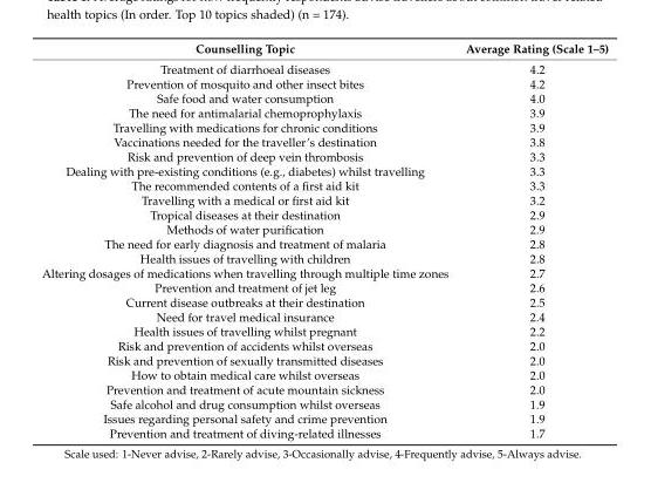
<table><thead><tr><td>Counselling Topic</td><td>Average Rating (Scale 1–5)</td></tr></thead><tbody><tr><td>Treatment of diarrhoeal diseases</td><td>4.2</td></tr><tr><td>Prevention of mosquito and other insect bites</td><td>4.2</td></tr><tr><td>Safe food and water consumption</td><td>4.0</td></tr><tr><td>The need for antimalarial chemoprophylaxis</td><td>3.9</td></tr><tr><td>Travelling with medications for chronic conditions</td><td>3.9</td></tr><tr><td>Vaccinations needed for the traveller’s destination</td><td>3.8</td></tr><tr><td>Risk and prevention of deep vein thrombosis</td><td>3.3</td></tr><tr><td>Dealing with pre-existing conditions (e.g., diabetes) whilst travelling</td><td>3.3</td></tr><tr><td>The recommended contents of a first aid kit</td><td>3.3</td></tr><tr><td>Travelling with a medical or first aid kit</td><td>3.2</td></tr><tr><td>Tropical diseases at their destination</td><td>2.9</td></tr><tr><td>Methods of water purification</td><td>2.9</td></tr><tr><td>The need for early diagnosis and treatment of malaria</td><td>2.8</td></tr><tr><td>Health issues of travelling with children</td><td>2.8</td></tr><tr><td>Altering dosages of medications when travelling through multiple time zones</td><td>2.7</td></tr><tr><td>Prevention and treatment of jet leg</td><td>2.6</td></tr><tr><td>Current disease outbreaks at their destination</td><td>2.5</td></tr><tr><td>Need for travel medical insurance</td><td>2.4</td></tr><tr><td>Health issues of travelling whilst pregnant</td><td>2.2</td></tr><tr><td>Risk and prevention of accidents whilst overseas</td><td>2.0</td></tr><tr><td>Risk and prevention of sexually transmitted diseases</td><td>2.0</td></tr><tr><td>How to obtain medical care whilst overseas</td><td>2.0</td></tr><tr><td>Prevention and treatment of acute mountain sickness</td><td>2.0</td></tr><tr><td>Safe alcohol and drug consumption whilst overseas</td><td>1.9</td></tr><tr><td>Issues regarding personal safety and crime prevention</td><td>1.9</td></tr><tr><td>Prevention and treatment of diving-related illnesses</td><td>1.7</td></tr></tbody></table>